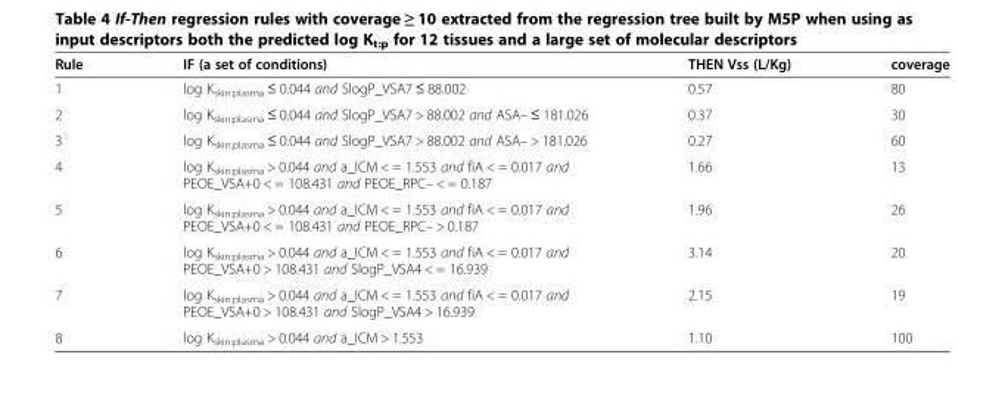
<table><thead><tr><td>Rule</td><td>IF (a set of conditions)</td><td>THEN Vss (L/Kg)</td><td>coverage</td></tr></thead><tbody><tr><td>1</td><td>log K<sub>skin:plasma</sub> ≤ 0.044 and SlogP_VSA7 ≤ 88.002</td><td>0.57</td><td>80</td></tr><tr><td>2</td><td>log K<sub>skin:plasma</sub> ≤ 0.044 and SlogP_VSA7 &gt; 88.002 and ASA– ≤ 181.026</td><td>0.37</td><td>30</td></tr><tr><td>3</td><td>log K<sub>skin:plasma</sub> ≤ 0.044 and SlogP_VSA7 &gt; 88.002 and ASA– &gt; 181.026</td><td>0.27</td><td>60</td></tr><tr><td>4</td><td>log K<sub>skin:plasma</sub> &gt; 0.044 and a_ICM &lt; = 1.553 and fiA &lt; = 0.017 and PEOE_VSA+0 &lt; = 108.431 and PEOE_RPC– &lt; = 0.187</td><td>1.66</td><td>13</td></tr><tr><td>5</td><td>log K<sub>skin:plasma</sub> &gt; 0.044 and a_ICM &lt; = 1.553 and fiA &lt; = 0.017 and PEOE_VSA+0 &lt; = 108.431 and PEOE_RPC– &gt; 0.187</td><td>1.96</td><td>26</td></tr><tr><td>6</td><td>log K<sub>skin:plasma</sub> &gt; 0.044 and a_ICM &lt; = 1.553 and fiA &lt; = 0.017 and PEOE_VSA+0 &gt; 108.431 and SlogP_VSA4 &lt; = 16.939</td><td>3.14</td><td>20</td></tr><tr><td>7</td><td>log K<sub>skin:plasma</sub> &gt; 0.044 and a_ICM &lt; = 1.553 and fiA &lt; = 0.017 and PEOE_VSA+0 &gt; 108.431 and SlogP_VSA4 &gt; 16.939</td><td>2.15</td><td>19</td></tr><tr><td>8</td><td>log K<sub>skin:plasma</sub> &gt; 0.044 and a_ICM &gt; 1.553</td><td>1.10</td><td>100</td></tr></tbody></table>